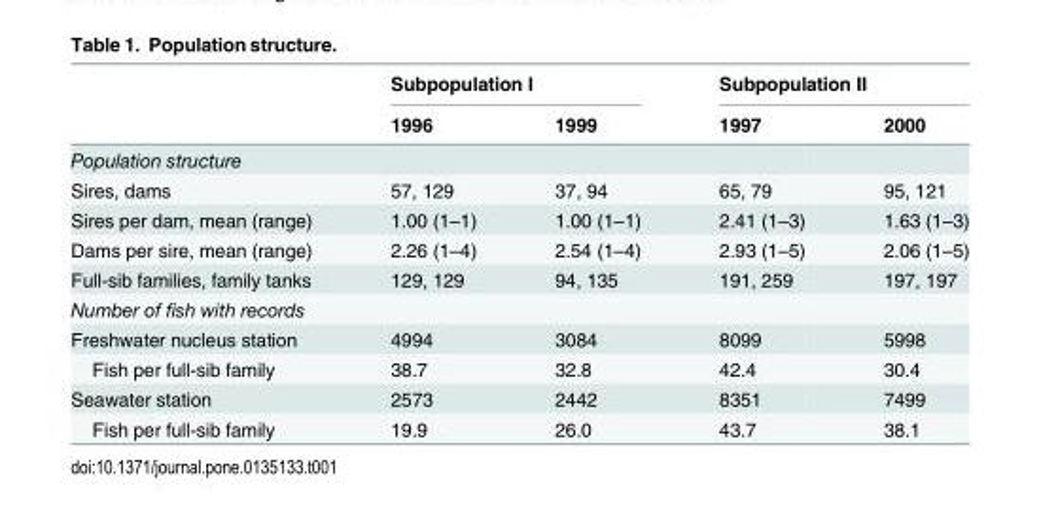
<table><thead><tr><td rowspan="2"></td><td colspan="2">Subpopulation I</td><td colspan="2">Subpopulation II</td></tr><tr><td>1996</td><td>1999</td><td>1997</td><td>2000</td></tr></thead><tbody><tr><td colspan="5">Population structure</td></tr><tr><td>Sires, dams</td><td>57, 129</td><td>37, 94</td><td>65, 79</td><td>95, 121</td></tr><tr><td>Sires per dam, mean (range)</td><td>1.00 (1–1)</td><td>1.00 (1–1)</td><td>2.41 (1–3)</td><td>1.63 (1–3)</td></tr><tr><td>Dams per sire, mean (range)</td><td>2.26 (1–4)</td><td>2.54 (1–4)</td><td>2.93 (1–5)</td><td>2.06 (1–5)</td></tr><tr><td>Full-sib families, family tanks</td><td>129, 129</td><td>94, 135</td><td>191, 259</td><td>197, 197</td></tr><tr><td colspan="5">Number of fish with records</td></tr><tr><td>Freshwater nucleus station</td><td>4994</td><td>3084</td><td>8099</td><td>5998</td></tr><tr><td>Fish per full-sib family</td><td>38.7</td><td>32.8</td><td>42.4</td><td>30.4</td></tr><tr><td>Seawater station</td><td>2573</td><td>2442</td><td>8351</td><td>7499</td></tr><tr><td>Fish per full-sib family</td><td>19.9</td><td>26.0</td><td>43.7</td><td>38.1</td></tr></tbody></table>